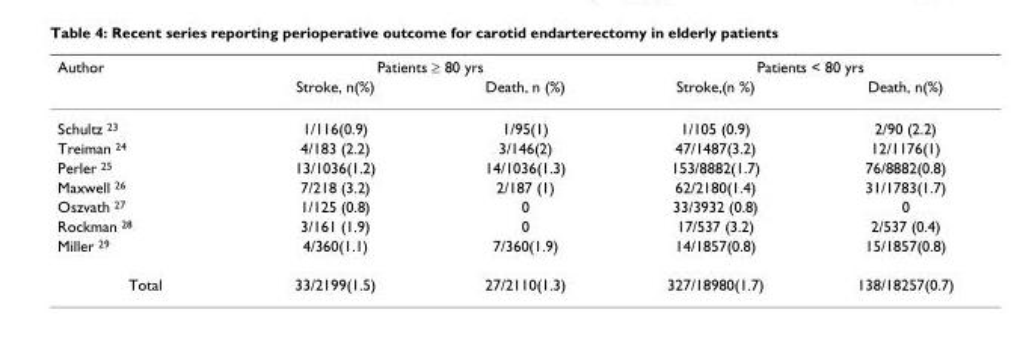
<table><thead><tr><td rowspan="2">Author</td><td colspan="2">Patients ≥ 80 yrs</td><td colspan="2">Patients &lt; 80 yrs</td></tr><tr><td>Stroke, n(%)</td><td>Death, n (%)</td><td>Stroke,(n %)</td><td>Death, n(%)</td></tr></thead><tbody><tr><td>Schultz <sup>23</sup></td><td>1/116(0.9)</td><td>1/95(1)</td><td>1/105 (0.9)</td><td>2/90 (2.2)</td></tr><tr><td>Treiman <sup>24</sup></td><td>4/183 (2.2)</td><td>3/146(2)</td><td>47/1487(3.2)</td><td>12/1176(1)</td></tr><tr><td>Perler <sup>25</sup></td><td>13/1036(1.2)</td><td>14/1036(1.3)</td><td>153/8882(1.7)</td><td>76/8882(0.8)</td></tr><tr><td>Maxwell <sup>26</sup></td><td>7/218 (3.2)</td><td>2/187 (1)</td><td>62/2180(1.4)</td><td>31/1783(1.7)</td></tr><tr><td>Oszvath <sup>27</sup></td><td>1/125 (0.8)</td><td>0</td><td>33/3932 (0.8)</td><td>0</td></tr><tr><td>Rockman <sup>28</sup></td><td>3/161 (1.9)</td><td>0</td><td>17/537 (3.2)</td><td>2/537 (0.4)</td></tr><tr><td>Miller <sup>29</sup></td><td>4/360(1.1)</td><td>7/360(1.9)</td><td>14/1857(0.8)</td><td>15/1857(0.8)</td></tr><tr><td>Total</td><td>33/2199(1.5)</td><td>27/2110(1.3)</td><td>327/18980(1.7)</td><td>138/18257(0.7)</td></tr></tbody></table>